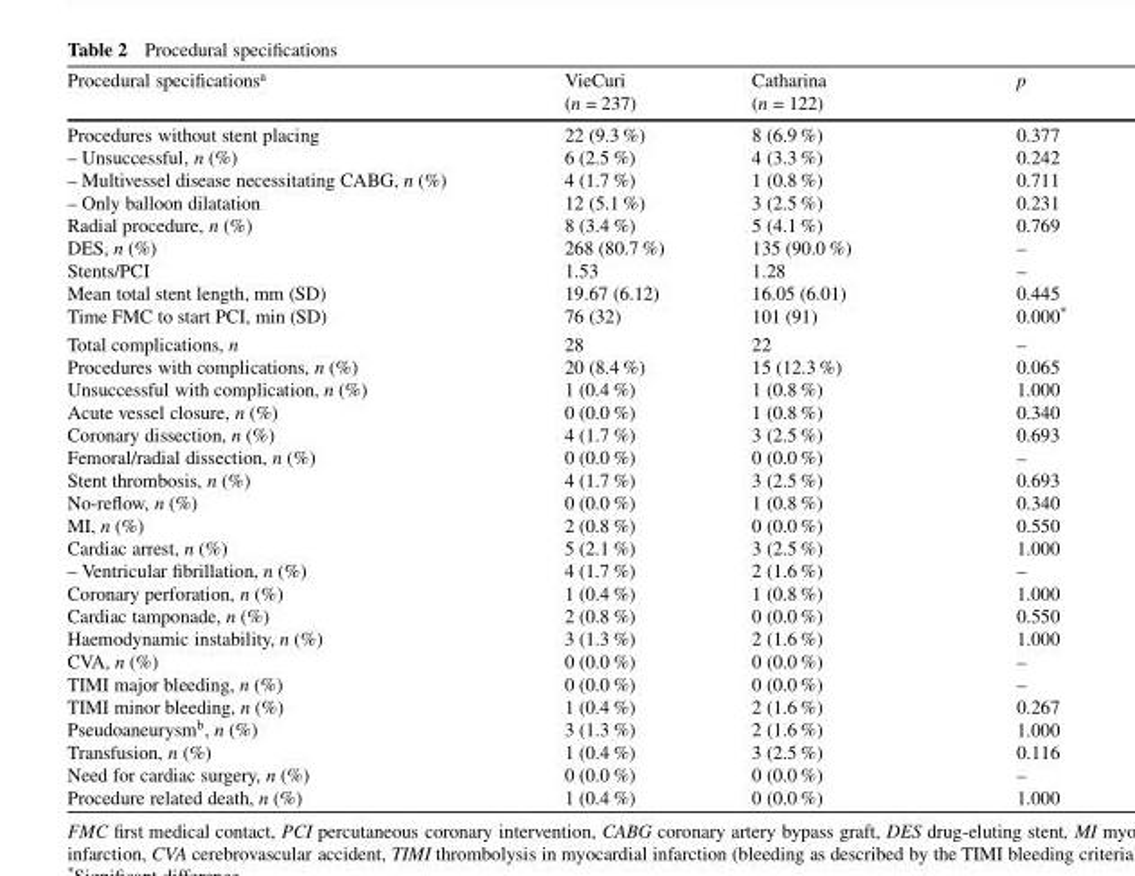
<table><thead><tr><td>Procedural specifications<sup>a</sup></td><td>VieCuri (n = 237)</td><td>Catharina (n = 122)</td><td>p</td></tr></thead><tbody><tr><td>Procedures without stent placing – Unsuccessful, n (%) – Multivessel disease necessitating CABG, n (%) – Only balloon dilatation Radial procedure, n (%) DES, n (%) Stents/PCI Mean total stent length, mm (SD) Time FMC to start PCI, min (SD)</td><td>22 (9.3 %) 6 (2.5 %) 4 (1.7 %) 12 (5.1 %) 8 (3.4 %) 268 (80.7 %) 1.53 19.67 (6.12) 76 (32)</td><td>8 (6.9 %) 4 (3.3 %) 1 (0.8 %) 3 (2.5 %) 5 (4.1 %) 135 (90.0 %) 1.28 16.05 (6.01) 101 (91)</td><td>0.377 0.242 0.711 0.231 0.769 – – 0.445 0.000*</td></tr><tr><td>Total complications, n Procedures with complications, n (%) Unsuccessful with complication, n (%) Acute vessel closure, n (%) Coronary dissection, n (%) Femoral/radial dissection, n (%) Stent thrombosis, n (%) No-reflow, n (%) MI, n (%) Cardiac arrest, n (%) – Ventricular fibrillation, n (%) Coronary perforation, n (%) Cardiac tamponade, n (%) Haemodynamic instability, n (%) CVA, n (%) TIMI major bleeding, n (%) TIMI minor bleeding, n (%) Pseudoaneurysm<sup>b</sup>, n (%) Transfusion, n (%) Need for cardiac surgery, n (%) Procedure related death, n (%)</td><td>28 20 (8.4 %) 1 (0.4 %) 0 (0.0 %) 4 (1.7 %) 0 (0.0 %) 4 (1.7 %) 0 (0.0 %) 2 (0.8 %) 5 (2.1 %) 4 (1.7 %) 1 (0.4 %) 2 (0.8 %) 3 (1.3 %) 0 (0.0 %) 0 (0.0 %) 1 (0.4 %) 3 (1.3 %) 1 (0.4 %) 0 (0.0 %) 1 (0.4 %)</td><td>22 15 (12.3 %) 1 (0.8 %) 1 (0.8 %) 3 (2.5 %) 0 (0.0 %) 3 (2.5 %) 1 (0.8 %) 0 (0.0 %) 3 (2.5 %) 2 (1.6 %) 1 (0.8 %) 0 (0.0 %) 2 (1.6 %) 0 (0.0 %) 0 (0.0 %) 2 (1.6 %) 2 (1.6 %) 3 (2.5 %) 0 (0.0 %) 0 (0.0 %)</td><td>– 0.065 1.000 0.340 0.693 – 0.693 0.340 0.550 1.000 – 1.000 0.550 1.000 – – 0.267 1.000 0.116 – 1.000</td></tr></tbody></table>